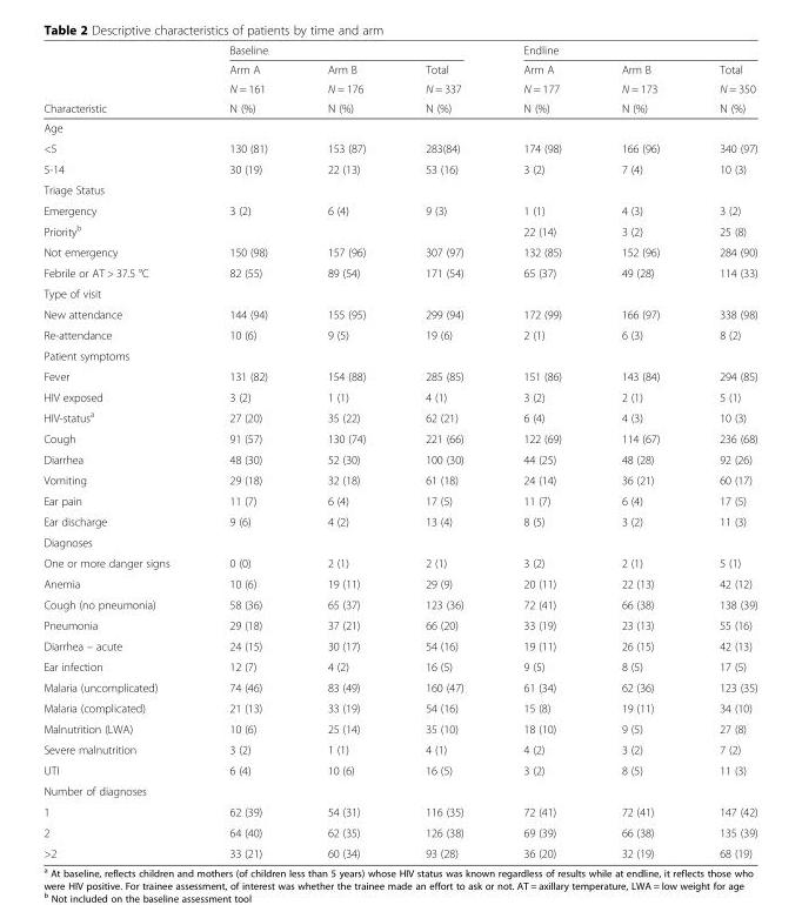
<table><thead><tr><td rowspan="4">Characteristic</td><td colspan="3">Baseline</td><td colspan="3">Endline</td></tr><tr><td rowspan="3">Arm A N = 161 N (%)</td><td rowspan="3">Arm B N = 176 N (%)</td><td rowspan="3">Total N = 337 N (%)</td><td rowspan="3">Arm A N = 177 N (%)</td><td rowspan="3">Arm B N = 173 N (%)</td><td rowspan="3">Total N = 350 N (%)</td></tr><tr></tr><tr></tr></thead><tbody><tr><td colspan="7">Age</td></tr><tr><td>&lt;5</td><td>130 (81)</td><td>153 (87)</td><td>283(84)</td><td>174 (98)</td><td>166 (96)</td><td>340 (97)</td></tr><tr><td>5-14</td><td>30 (19)</td><td>22 (13)</td><td>53 (16)</td><td>3 (2)</td><td>7 (4)</td><td>10 (3)</td></tr><tr><td colspan="7">Triage Status</td></tr><tr><td>Emergency</td><td>3 (2)</td><td>6 (4)</td><td>9 (3)</td><td>1 (1)</td><td>4 (3)</td><td>3 (2)</td></tr><tr><td>Priority<sup>b</sup></td><td></td><td></td><td></td><td>22 (14)</td><td>3 (2)</td><td>25 (8)</td></tr><tr><td>Not emergency</td><td>150 (98)</td><td>157 (96)</td><td>307 (97)</td><td>132 (85)</td><td>152 (96)</td><td>284 (90)</td></tr><tr><td>Febrile or AT &gt; 37.5 °C</td><td>82 (55)</td><td>89 (54)</td><td>171 (54)</td><td>65 (37)</td><td>49 (28)</td><td>114 (33)</td></tr><tr><td colspan="7">Type of visit</td></tr><tr><td>New attendance</td><td>144 (94)</td><td>155 (95)</td><td>299 (94)</td><td>172 (99)</td><td>166 (97)</td><td>338 (98)</td></tr><tr><td>Re-attendance</td><td>10 (6)</td><td>9 (5)</td><td>19 (6)</td><td>2 (1)</td><td>6 (3)</td><td>8 (2)</td></tr><tr><td colspan="7">Patient symptoms</td></tr><tr><td>Fever</td><td>131 (82)</td><td>154 (88)</td><td>285 (85)</td><td>151 (86)</td><td>143 (84)</td><td>294 (85)</td></tr><tr><td>HIV exposed</td><td>3 (2)</td><td>1 (1)</td><td>4 (1)</td><td>3 (2)</td><td>2 (1)</td><td>5 (1)</td></tr><tr><td>HIV-status<sup>a</sup></td><td>27 (20)</td><td>35 (22)</td><td>62 (21)</td><td>6 (4)</td><td>4 (3)</td><td>10 (3)</td></tr><tr><td>Cough</td><td>91 (57)</td><td>130 (74)</td><td>221 (66)</td><td>122 (69)</td><td>114 (67)</td><td>236 (68)</td></tr><tr><td>Diarrhea</td><td>48 (30)</td><td>52 (30)</td><td>100 (30)</td><td>44 (25)</td><td>48 (28)</td><td>92 (26)</td></tr><tr><td>Vomiting</td><td>29 (18)</td><td>32 (18)</td><td>61 (18)</td><td>24 (14)</td><td>36 (21)</td><td>60 (17)</td></tr><tr><td>Ear pain</td><td>11 (7)</td><td>6 (4)</td><td>17 (5)</td><td>11 (7)</td><td>6 (4)</td><td>17 (5)</td></tr><tr><td>Ear discharge</td><td>9 (6)</td><td>4 (2)</td><td>13 (4)</td><td>8 (5)</td><td>3 (2)</td><td>11 (3)</td></tr><tr><td colspan="7">Diagnoses</td></tr><tr><td>One or more danger signs</td><td>0 (0)</td><td>2 (1)</td><td>2 (1)</td><td>3 (2)</td><td>2 (1)</td><td>5 (1)</td></tr><tr><td>Anemia</td><td>10 (6)</td><td>19 (11)</td><td>29 (9)</td><td>20 (11)</td><td>22 (13)</td><td>42 (12)</td></tr><tr><td>Cough (no pneumonia)</td><td>58 (36)</td><td>65 (37)</td><td>123 (36)</td><td>72 (41)</td><td>66 (38)</td><td>138 (39)</td></tr><tr><td>Pneumonia</td><td>29 (18)</td><td>37 (21)</td><td>66 (20)</td><td>33 (19)</td><td>23 (13)</td><td>55 (16)</td></tr><tr><td>Diarrhea – acute</td><td>24 (15)</td><td>30 (17)</td><td>54 (16)</td><td>19 (11)</td><td>26 (15)</td><td>42 (13)</td></tr><tr><td>Ear infection</td><td>12 (7)</td><td>4 (2)</td><td>16 (5)</td><td>9 (5)</td><td>8 (5)</td><td>17 (5)</td></tr><tr><td>Malaria (uncomplicated)</td><td>74 (46)</td><td>83 (49)</td><td>160 (47)</td><td>61 (34)</td><td>62 (36)</td><td>123 (35)</td></tr><tr><td>Malaria (complicated)</td><td>21 (13)</td><td>33 (19)</td><td>54 (16)</td><td>15 (8)</td><td>19 (11)</td><td>34 (10)</td></tr><tr><td>Malnutrition (LWA)</td><td>10 (6)</td><td>25 (14)</td><td>35 (10)</td><td>18 (10)</td><td>9 (5)</td><td>27 (8)</td></tr><tr><td>Severe malnutrition</td><td>3 (2)</td><td>1 (1)</td><td>4 (1)</td><td>4 (2)</td><td>3 (2)</td><td>7 (2)</td></tr><tr><td>UTI</td><td>6 (4)</td><td>10 (6)</td><td>16 (5)</td><td>3 (2)</td><td>8 (5)</td><td>11 (3)</td></tr><tr><td colspan="7">Number of diagnoses</td></tr><tr><td>1</td><td>62 (39)</td><td>54 (31)</td><td>116 (35)</td><td>72 (41)</td><td>72 (41)</td><td>147 (42)</td></tr><tr><td>2</td><td>64 (40)</td><td>62 (35)</td><td>126 (38)</td><td>69 (39)</td><td>66 (38)</td><td>135 (39)</td></tr><tr><td>&gt;2</td><td>33 (21)</td><td>60 (34)</td><td>93 (28)</td><td>36 (20)</td><td>32 (19)</td><td>68 (19)</td></tr></tbody></table>